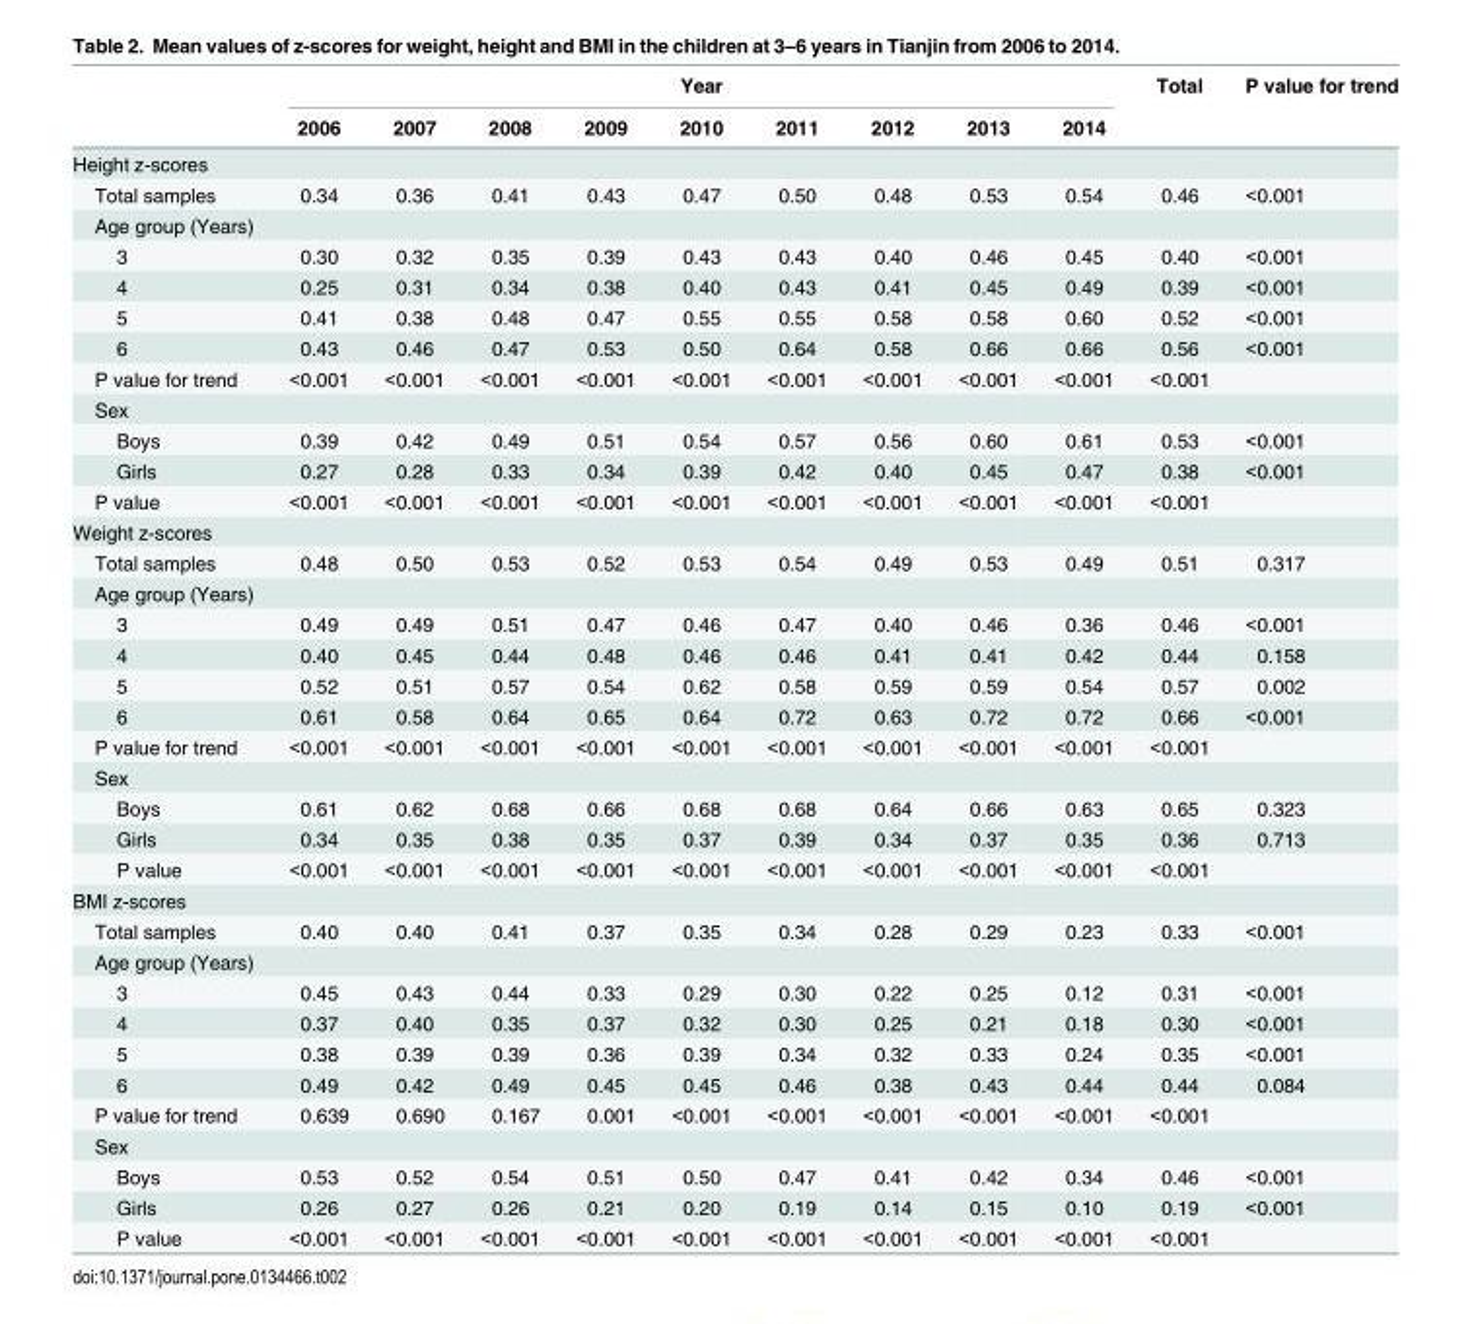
<table><thead><tr><td rowspan="2"></td><td colspan="9">Year</td><td rowspan="2">Total</td><td rowspan="2">P value for trend</td></tr><tr><td>2006</td><td>2007</td><td>2008</td><td>2009</td><td>2010</td><td>2011</td><td>2012</td><td>2013</td><td>2014</td></tr></thead><tbody><tr><td colspan="12">Height z-scores</td></tr><tr><td>Total samples</td><td>0.34</td><td>0.36</td><td>0.41</td><td>0.43</td><td>0.47</td><td>0.50</td><td>0.48</td><td>0.53</td><td>0.54</td><td>0.46</td><td>&lt;0.001</td></tr><tr><td colspan="12">Age group (Years)</td></tr><tr><td>3</td><td>0.30</td><td>0.32</td><td>0.35</td><td>0.39</td><td>0.43</td><td>0.43</td><td>0.40</td><td>0.46</td><td>0.45</td><td>0.40</td><td>&lt;0.001</td></tr><tr><td>4</td><td>0.25</td><td>0.31</td><td>0.34</td><td>0.38</td><td>0.40</td><td>0.43</td><td>0.41</td><td>0.45</td><td>0.49</td><td>0.39</td><td>&lt;0.001</td></tr><tr><td>5</td><td>0.41</td><td>0.38</td><td>0.48</td><td>0.47</td><td>0.55</td><td>0.55</td><td>0.58</td><td>0.58</td><td>0.60</td><td>0.52</td><td>&lt;0.001</td></tr><tr><td>6</td><td>0.43</td><td>0.46</td><td>0.47</td><td>0.53</td><td>0.50</td><td>0.64</td><td>0.58</td><td>0.66</td><td>0.66</td><td>0.56</td><td>&lt;0.001</td></tr><tr><td>P value for trend</td><td>&lt;0.001</td><td>&lt;0.001</td><td>&lt;0.001</td><td>&lt;0.001</td><td>&lt;0.001</td><td>&lt;0.001</td><td>&lt;0.001</td><td>&lt;0.001</td><td>&lt;0.001</td><td>&lt;0.001</td><td></td></tr><tr><td colspan="12">Sex</td></tr><tr><td>Boys</td><td>0.39</td><td>0.42</td><td>0.49</td><td>0.51</td><td>0.54</td><td>0.57</td><td>0.56</td><td>0.60</td><td>0.61</td><td>0.53</td><td>&lt;0.001</td></tr><tr><td>Girls</td><td>0.27</td><td>0.28</td><td>0.33</td><td>0.34</td><td>0.39</td><td>0.42</td><td>0.40</td><td>0.45</td><td>0.47</td><td>0.38</td><td>&lt;0.001</td></tr><tr><td>P value</td><td>&lt;0.001</td><td>&lt;0.001</td><td>&lt;0.001</td><td>&lt;0.001</td><td>&lt;0.001</td><td>&lt;0.001</td><td>&lt;0.001</td><td>&lt;0.001</td><td>&lt;0.001</td><td>&lt;0.001</td><td></td></tr><tr><td colspan="12">Weight z-scores</td></tr><tr><td>Total samples</td><td>0.48</td><td>0.50</td><td>0.53</td><td>0.52</td><td>0.53</td><td>0.54</td><td>0.49</td><td>0.53</td><td>0.49</td><td>0.51</td><td>0.317</td></tr><tr><td colspan="12">Age group (Years)</td></tr><tr><td>3</td><td>0.49</td><td>0.49</td><td>0.51</td><td>0.47</td><td>0.46</td><td>0.47</td><td>0.40</td><td>0.46</td><td>0.36</td><td>0.46</td><td>&lt;0.001</td></tr><tr><td>4</td><td>0.40</td><td>0.45</td><td>0.44</td><td>0.48</td><td>0.46</td><td>0.46</td><td>0.41</td><td>0.41</td><td>0.42</td><td>0.44</td><td>0.158</td></tr><tr><td>5</td><td>0.52</td><td>0.51</td><td>0.57</td><td>0.54</td><td>0.62</td><td>0.58</td><td>0.59</td><td>0.59</td><td>0.54</td><td>0.57</td><td>0.002</td></tr><tr><td>6</td><td>0.61</td><td>0.58</td><td>0.64</td><td>0.65</td><td>0.64</td><td>0.72</td><td>0.63</td><td>0.72</td><td>0.72</td><td>0.66</td><td>&lt;0.001</td></tr><tr><td>P value for trend</td><td>&lt;0.001</td><td>&lt;0.001</td><td>&lt;0.001</td><td>&lt;0.001</td><td>&lt;0.001</td><td>&lt;0.001</td><td>&lt;0.001</td><td>&lt;0.001</td><td>&lt;0.001</td><td>&lt;0.001</td><td></td></tr><tr><td colspan="12">Sex</td></tr><tr><td>Boys</td><td>0.61</td><td>0.62</td><td>0.68</td><td>0.66</td><td>0.68</td><td>0.68</td><td>0.64</td><td>0.66</td><td>0.63</td><td>0.65</td><td>0.323</td></tr><tr><td>Girls</td><td>0.34</td><td>0.35</td><td>0.38</td><td>0.35</td><td>0.37</td><td>0.39</td><td>0.34</td><td>0.37</td><td>0.35</td><td>0.36</td><td>0.713</td></tr><tr><td>P value</td><td>&lt;0.001</td><td>&lt;0.001</td><td>&lt;0.001</td><td>&lt;0.001</td><td>&lt;0.001</td><td>&lt;0.001</td><td>&lt;0.001</td><td>&lt;0.001</td><td>&lt;0.001</td><td>&lt;0.001</td><td></td></tr><tr><td colspan="12">BMI z-scores</td></tr><tr><td>Total samples</td><td>0.40</td><td>0.40</td><td>0.41</td><td>0.37</td><td>0.35</td><td>0.34</td><td>0.28</td><td>0.29</td><td>0.23</td><td>0.33</td><td>&lt;0.001</td></tr><tr><td colspan="12">Age group (Years)</td></tr><tr><td>3</td><td>0.45</td><td>0.43</td><td>0.44</td><td>0.33</td><td>0.29</td><td>0.30</td><td>0.22</td><td>0.25</td><td>0.12</td><td>0.31</td><td>&lt;0.001</td></tr><tr><td>4</td><td>0.37</td><td>0.40</td><td>0.35</td><td>0.37</td><td>0.32</td><td>0.30</td><td>0.25</td><td>0.21</td><td>0.18</td><td>0.30</td><td>&lt;0.001</td></tr><tr><td>5</td><td>0.38</td><td>0.39</td><td>0.39</td><td>0.36</td><td>0.39</td><td>0.34</td><td>0.32</td><td>0.33</td><td>0.24</td><td>0.35</td><td>&lt;0.001</td></tr><tr><td>6</td><td>0.49</td><td>0.42</td><td>0.49</td><td>0.45</td><td>0.45</td><td>0.46</td><td>0.38</td><td>0.43</td><td>0.44</td><td>0.44</td><td>0.084</td></tr><tr><td>P value for trend</td><td>0.639</td><td>0.690</td><td>0.167</td><td>0.001</td><td>&lt;0.001</td><td>&lt;0.001</td><td>&lt;0.001</td><td>&lt;0.001</td><td>&lt;0.001</td><td>&lt;0.001</td><td></td></tr><tr><td colspan="12">Sex</td></tr><tr><td>Boys</td><td>0.53</td><td>0.52</td><td>0.54</td><td>0.51</td><td>0.50</td><td>0.47</td><td>0.41</td><td>0.42</td><td>0.34</td><td>0.46</td><td>&lt;0.001</td></tr><tr><td>Girls</td><td>0.26</td><td>0.27</td><td>0.26</td><td>0.21</td><td>0.20</td><td>0.19</td><td>0.14</td><td>0.15</td><td>0.10</td><td>0.19</td><td>&lt;0.001</td></tr><tr><td>P value</td><td>&lt;0.001</td><td>&lt;0.001</td><td>&lt;0.001</td><td>&lt;0.001</td><td>&lt;0.001</td><td>&lt;0.001</td><td>&lt;0.001</td><td>&lt;0.001</td><td>&lt;0.001</td><td>&lt;0.001</td><td></td></tr></tbody></table>